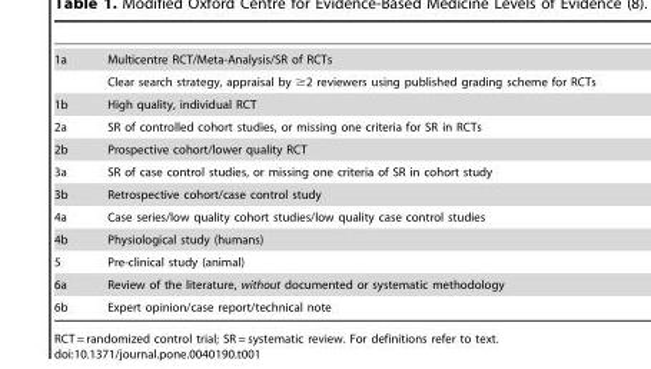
<table><tbody><tr><td rowspan="2">1a</td><td>Multicentre RCT/Meta-Analysis/SR of RCTs</td></tr><tr><td>Clear search strategy, appraisal by ≥2 reviewers using published grading scheme for RCTs</td></tr><tr><td>1b</td><td>High quality, individual RCT</td></tr><tr><td>2a</td><td>SR of controlled cohort studies, or missing one criteria for SR in RCTs</td></tr><tr><td>2b</td><td>Prospective cohort/lower quality RCT</td></tr><tr><td>3a</td><td>SR of case control studies, or missing one criteria of SR in cohort study</td></tr><tr><td>3b</td><td>Retrospective cohort/case control study</td></tr><tr><td>4a</td><td>Case series/low quality cohort studies/low quality case control studies</td></tr><tr><td>4b</td><td>Physiological study (humans)</td></tr><tr><td>5</td><td>Pre-clinical study (animal)</td></tr><tr><td>6a</td><td>Review of the literature, without documented or systematic methodology</td></tr><tr><td>6b</td><td>Expert opinion/case report/technical note</td></tr></tbody></table>